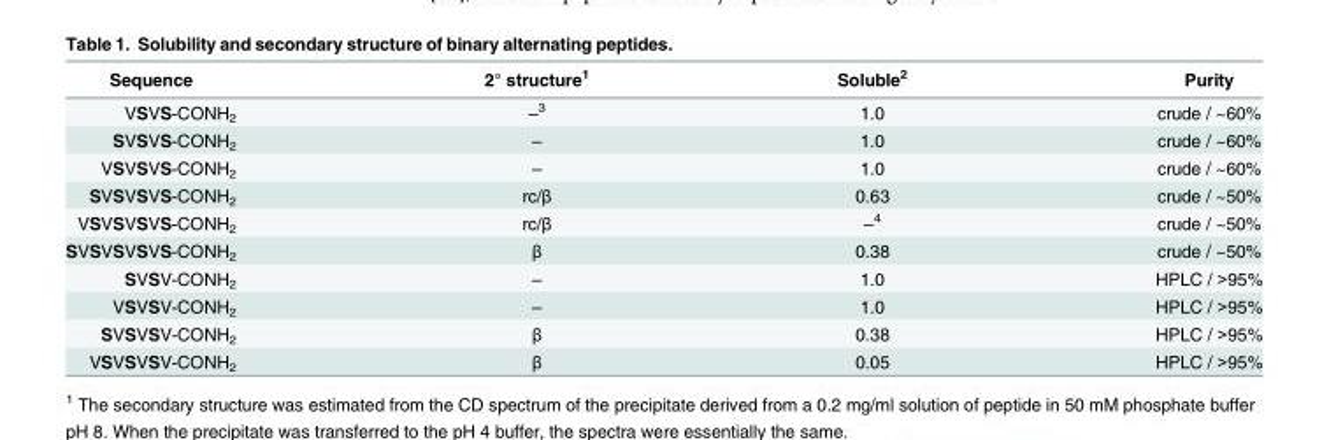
<table><thead><tr><td>Sequence</td><td>2° structure<sup>1</sup></td><td>Soluble<sup>2</sup></td><td>Purity</td></tr></thead><tbody><tr><td>VSVS-CONH<sub>2</sub></td><td>–3</td><td>1.0</td><td>crude / ~60%</td></tr><tr><td>SVSVS-CONH<sub>2</sub></td><td>–</td><td>1.0</td><td>crude / ~60%</td></tr><tr><td>VSVSVS-CONH<sub>2</sub></td><td>–</td><td>1.0</td><td>crude / ~60%</td></tr><tr><td>SVSVSVS-CONH<sub>2</sub></td><td>rc/β</td><td>0.63</td><td>crude / ~50%</td></tr><tr><td>VSVSVSVS-CONH<sub>2</sub></td><td>rc/β</td><td>–4</td><td>crude / ~50%</td></tr><tr><td>SVSVSVSVS-CONH<sub>2</sub></td><td>β</td><td>0.38</td><td>crude / ~50%</td></tr><tr><td>SVSV-CONH<sub>2</sub></td><td>–</td><td>1.0</td><td>HPLC / &gt;95%</td></tr><tr><td>VSVSV-CONH<sub>2</sub></td><td>–</td><td>1.0</td><td>HPLC / &gt;95%</td></tr><tr><td>SVSVSV-CONH<sub>2</sub></td><td>β</td><td>0.38</td><td>HPLC / &gt;95%</td></tr><tr><td>VSVSVSV-CONH<sub>2</sub></td><td>β</td><td>0.05</td><td>HPLC / &gt;95%</td></tr></tbody></table>